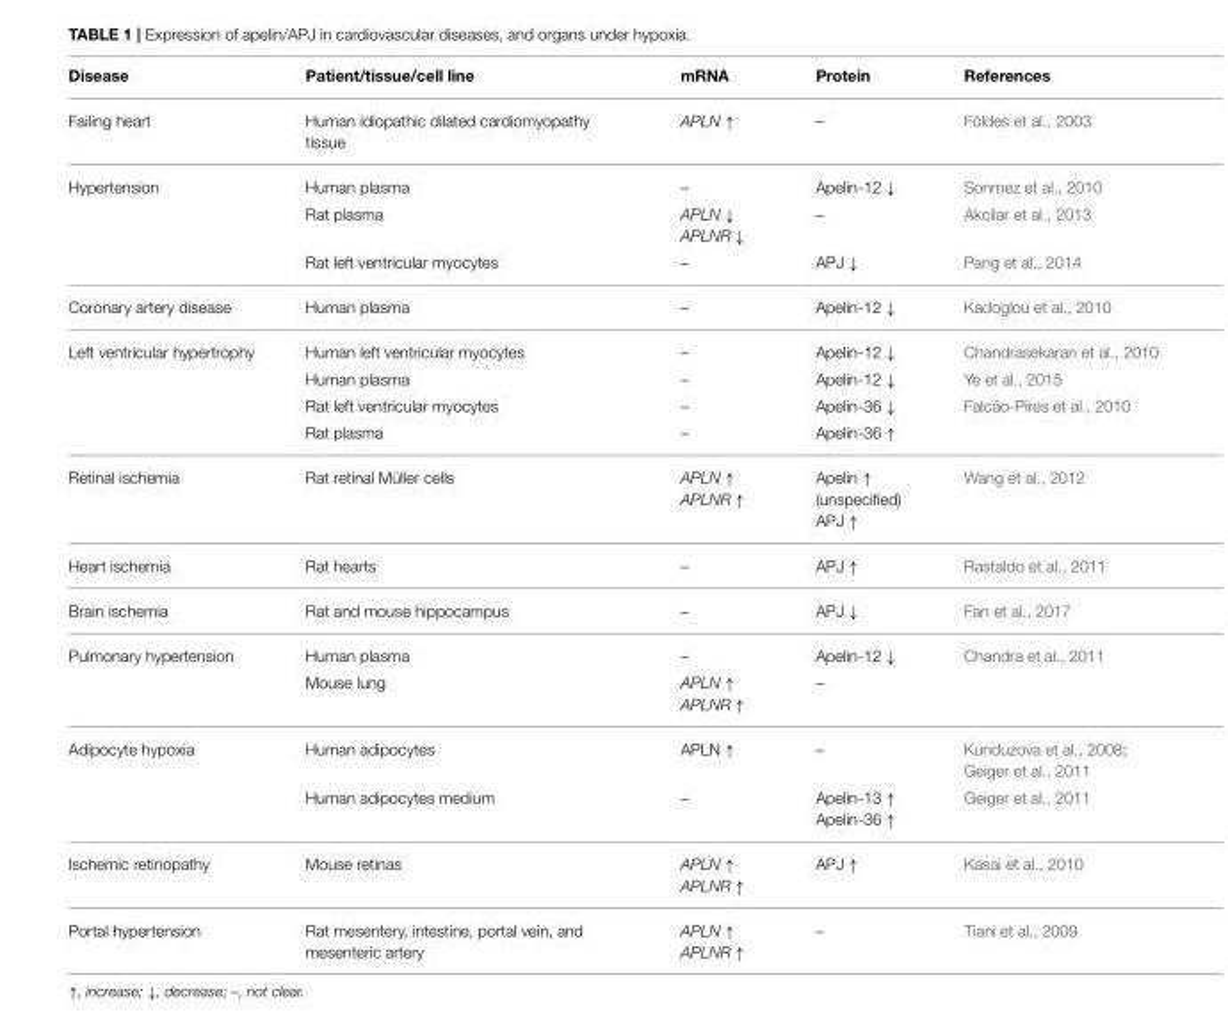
<table><thead><tr><td>Disease</td><td>Patient/tissue/cell line</td><td>mRNA</td><td>Protein</td><td>References</td></tr></thead><tbody><tr><td>Failing heart</td><td>Human idiopathic dilated cardiomyopathy tissue</td><td>APLN ↑</td><td>–</td><td>Földes et al., 2003</td></tr><tr><td rowspan="3">Hypertension</td><td>Human plasma</td><td>–</td><td>Apelin-12 ↓</td><td>Sonmez et al., 2010</td></tr><tr><td>Rat plasma</td><td>APLN ↓ APLNR ↓</td><td>–</td><td>Akcilar et al., 2013</td></tr><tr><td>Rat left ventricular myocytes</td><td>–</td><td>APJ ↓</td><td>Pang et al., 2014</td></tr><tr><td>Coronary artery disease</td><td>Human plasma</td><td>–</td><td>Apelin-12 ↓</td><td>Kadoglou et al., 2010</td></tr><tr><td rowspan="4">Left ventricular hypertrophy</td><td>Human left ventricular myocytes</td><td>–</td><td>Apelin-12 ↓</td><td>Chandrasekaran et al., 2010</td></tr><tr><td>Human plasma</td><td>–</td><td>Apelin-12 ↓</td><td>Ye et al., 2015</td></tr><tr><td>Rat left ventricular myocytes</td><td>–</td><td>Apelin-36 ↓</td><td>Falcão-Pires et al., 2010</td></tr><tr><td>Rat plasma</td><td>–</td><td>Apelin-36 ↑</td><td></td></tr><tr><td>Retinal ischemia</td><td>Rat retinal Müller cells</td><td>APLN ↑ APLNR ↑</td><td>Apelin ↑ (unspecified) APJ ↑</td><td>Wang et al., 2012</td></tr><tr><td>Heart ischemia</td><td>Rat hearts</td><td>–</td><td>APJ ↑</td><td>Rastaldo et al., 2011</td></tr><tr><td>Brain ischemia</td><td>Rat and mouse hippocampus</td><td>–</td><td>APJ ↓</td><td>Fan et al., 2017</td></tr><tr><td rowspan="2">Pulmonary hypertension</td><td>Human plasma</td><td>–</td><td>Apelin-12 ↓</td><td>Chandra et al., 2011</td></tr><tr><td>Mouse lung</td><td>APLN ↑ APLNR ↑</td><td>–</td><td></td></tr><tr><td rowspan="2">Adipocyte hypoxia</td><td>Human adipocytes</td><td>APLN ↑</td><td>–</td><td>Kunduzova et al., 2008; Geiger et al., 2011</td></tr><tr><td>Human adipocytes medium</td><td>–</td><td>Apelin-13 ↑ Apelin-36 ↑</td><td>Geiger et al., 2011</td></tr><tr><td>Ischemic retinopathy</td><td>Mouse retinas</td><td>APLN ↑ APLNR ↑</td><td>APJ ↑</td><td>Kasai et al., 2010</td></tr><tr><td>Portal hypertension</td><td>Rat mesentery, intestine, portal vein, and mesenteric artery</td><td>APLN ↑ APLNR ↑</td><td>–</td><td>Tiani et al., 2009</td></tr></tbody></table>